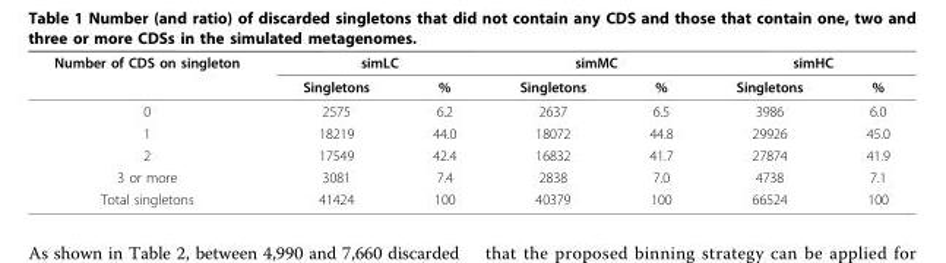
<table><thead><tr><td rowspan="2">Number of CDS on singleton</td><td colspan="2">simLC</td><td colspan="2">simMC</td><td colspan="2">simHC</td></tr><tr><td>Singletons</td><td>%</td><td>Singletons</td><td>%</td><td>Singletons</td><td>%</td></tr></thead><tbody><tr><td>0</td><td>2575</td><td>6.2</td><td>2637</td><td>6.5</td><td>3986</td><td>6.0</td></tr><tr><td>1</td><td>18219</td><td>44.0</td><td>18072</td><td>44.8</td><td>29926</td><td>45.0</td></tr><tr><td>2</td><td>17549</td><td>42.4</td><td>16832</td><td>41.7</td><td>27874</td><td>41.9</td></tr><tr><td>3 or more</td><td>3081</td><td>7.4</td><td>2838</td><td>7.0</td><td>4738</td><td>7.1</td></tr><tr><td>Total singletons</td><td>41424</td><td>100</td><td>40379</td><td>100</td><td>66524</td><td>100</td></tr></tbody></table>